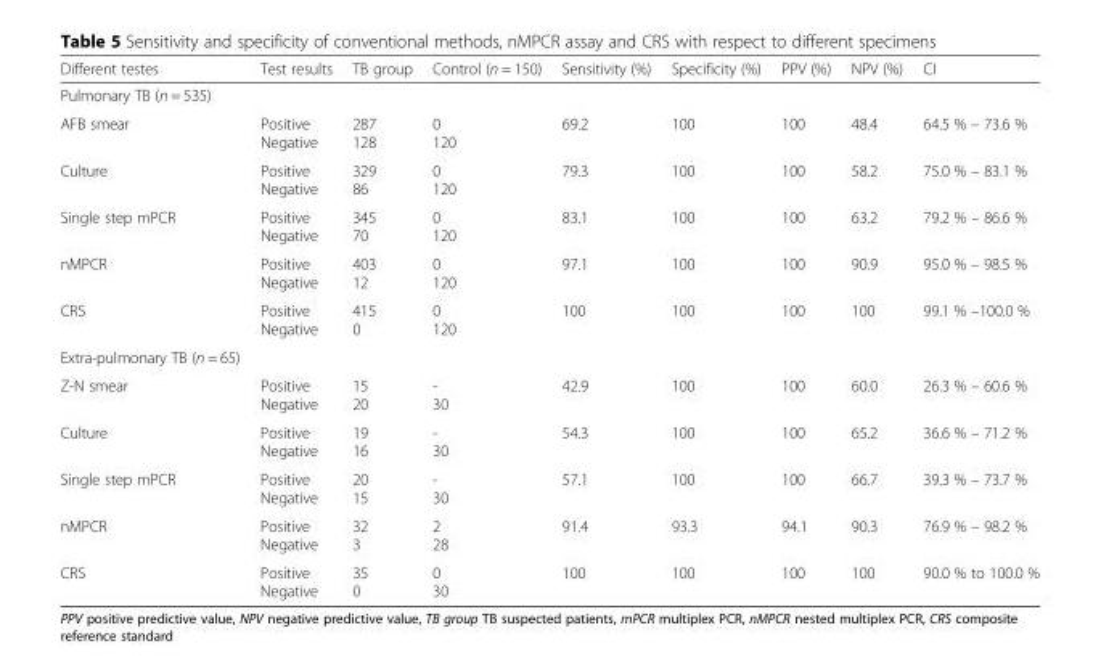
<table><thead><tr><td>Different testes</td><td>Test results</td><td>TB group</td><td>Control (n = 150)</td><td>Sensitivity (%)</td><td>Specificity (%)</td><td>PPV (%)</td><td>NPV (%)</td><td>CI</td></tr></thead><tbody><tr><td colspan="9">Pulmonary TB (n = 535)</td></tr><tr><td>AFB smear</td><td>Positive Negative</td><td>287 128</td><td>0 120</td><td>69.2</td><td>100</td><td>100</td><td>48.4</td><td>64.5 % – 73.6 %</td></tr><tr><td>Culture</td><td>Positive Negative</td><td>329 86</td><td>0 120</td><td>79.3</td><td>100</td><td>100</td><td>58.2</td><td>75.0 % – 83.1 %</td></tr><tr><td>Single step mPCR</td><td>Positive Negative</td><td>345 70</td><td>0 120</td><td>83.1</td><td>100</td><td>100</td><td>63.2</td><td>79.2 % – 86.6 %</td></tr><tr><td>nMPCR</td><td>Positive Negative</td><td>403 12</td><td>0 120</td><td>97.1</td><td>100</td><td>100</td><td>90.9</td><td>95.0 % – 98.5 %</td></tr><tr><td>CRS</td><td>Positive Negative</td><td>415 0</td><td>0 120</td><td>100</td><td>100</td><td>100</td><td>100</td><td>99.1 % –100.0 %</td></tr><tr><td colspan="9">Extra-pulmonary TB (n = 65)</td></tr><tr><td>Z-N smear</td><td>Positive Negative</td><td>15 20</td><td>- 30</td><td>42.9</td><td>100</td><td>100</td><td>60.0</td><td>26.3 % – 60.6 %</td></tr><tr><td>Culture</td><td>Positive Negative</td><td>19 16</td><td>- 30</td><td>54.3</td><td>100</td><td>100</td><td>65.2</td><td>36.6 % – 71.2 %</td></tr><tr><td>Single step mPCR</td><td>Positive Negative</td><td>20 15</td><td>- 30</td><td>57.1</td><td>100</td><td>100</td><td>66.7</td><td>39.3 % – 73.7 %</td></tr><tr><td>nMPCR</td><td>Positive Negative</td><td>32 3</td><td>2 28</td><td>91.4</td><td>93.3</td><td>94.1</td><td>90.3</td><td>76.9 % – 98.2 %</td></tr><tr><td>CRS</td><td>Positive Negative</td><td>35 0</td><td>0 30</td><td>100</td><td>100</td><td>100</td><td>100</td><td>90.0 % to 100.0 %</td></tr></tbody></table>